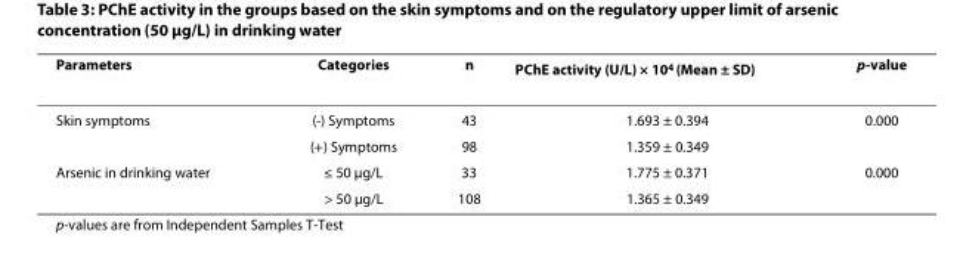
<table><thead><tr><td>Parameters</td><td>Categories</td><td>n</td><td>PChE activity (U/L) × 10<sup>4</sup> (Mean ± SD)</td><td>p-value</td></tr></thead><tbody><tr><td rowspan="2">Skin symptoms</td><td>(-) Symptoms</td><td>43</td><td>1.693 ± 0.394</td><td>0.000</td></tr><tr><td>(+) Symptoms</td><td>98</td><td>1.359 ± 0.349</td><td></td></tr><tr><td rowspan="2">Arsenic in drinking water</td><td>≤ 50 μg/L</td><td>33</td><td>1.775 ± 0.371</td><td>0.000</td></tr><tr><td>&gt; 50 μg/L</td><td>108</td><td>1.365 ± 0.349</td><td></td></tr></tbody></table>